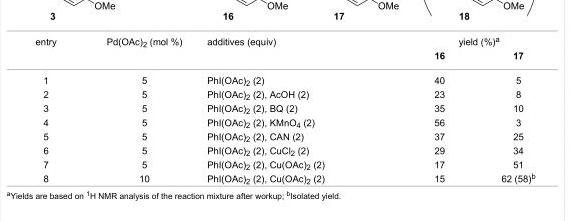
<table><tbody><tr><td>entry</td><td>Pd(OAc)<sub>2</sub> (mol %)</td><td>additives (equiv)</td><td colspan="2">yield (%)<sup>a</sup></td></tr><tr><td colspan="3"></td><td>16</td><td>17</td></tr><tr><td>1</td><td>5</td><td>PhI(OAc)<sub>2</sub> (2)</td><td>40</td><td>5</td></tr><tr><td>2</td><td>5</td><td>PhI(OAc)<sub>2</sub> (2), AcOH (2)</td><td>23</td><td>8</td></tr><tr><td>3</td><td>5</td><td>PhI(OAc)<sub>2</sub> (2), BQ (2)</td><td>35</td><td>10</td></tr><tr><td>4</td><td>5</td><td>PhI(OAc)<sub>2</sub> (2), KMnO<sub>4</sub> (2)</td><td>56</td><td>3</td></tr><tr><td>5</td><td>5</td><td>PhI(OAc)<sub>2</sub> (2), CAN (2)</td><td>37</td><td>25</td></tr><tr><td>6</td><td>5</td><td>PhI(OAc)<sub>2</sub> (2), CuCl<sub>2</sub> (2)</td><td>29</td><td>34</td></tr><tr><td>7</td><td>5</td><td>PhI(OAc)<sub>2</sub> (2), Cu(OAc)<sub>2</sub> (2)</td><td>17</td><td>51</td></tr><tr><td>8</td><td>10</td><td>PhI(OAc)<sub>2</sub> (2), Cu(OAc)<sub>2</sub> (2)</td><td>15</td><td>62 (58)<sup>b</sup></td></tr></tbody></table>